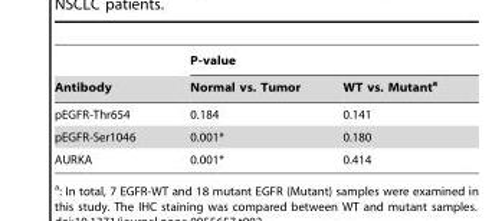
<table><thead><tr><td rowspan="2">Antibody</td><td colspan="2">P-value</td></tr><tr><td>Normal vs. Tumor</td><td>WT vs. Mutant<sup>a</sup></td></tr></thead><tbody><tr><td>pEGFR-Thr654</td><td>0.184</td><td>0.141</td></tr><tr><td>pEGFR-Ser1046</td><td>0.001*</td><td>0.180</td></tr><tr><td>AURKA</td><td>0.001*</td><td>0.414</td></tr></tbody></table>